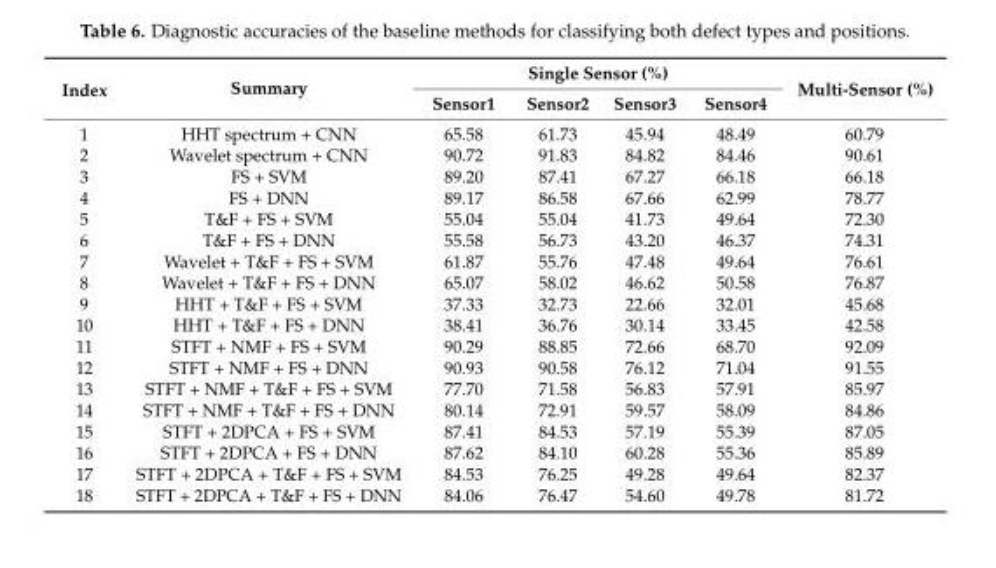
<table><thead><tr><td rowspan="2">Index</td><td rowspan="2">Summary</td><td colspan="4">Single Sensor (%)</td><td rowspan="2">Multi-Sensor (%)</td></tr><tr><td>Sensor1</td><td>Sensor2</td><td>Sensor3</td><td>Sensor4</td></tr></thead><tbody><tr><td>1</td><td>HHT spectrum + CNN</td><td>65.58</td><td>61.73</td><td>45.94</td><td>48.49</td><td>60.79</td></tr><tr><td>2</td><td>Wavelet spectrum + CNN</td><td>90.72</td><td>91.83</td><td>84.82</td><td>84.46</td><td>90.61</td></tr><tr><td>3</td><td>FS + SVM</td><td>89.20</td><td>87.41</td><td>67.27</td><td>66.18</td><td>66.18</td></tr><tr><td>4</td><td>FS + DNN</td><td>89.17</td><td>86.58</td><td>67.66</td><td>62.99</td><td>78.77</td></tr><tr><td>5</td><td>T&amp;F + FS + SVM</td><td>55.04</td><td>55.04</td><td>41.73</td><td>49.64</td><td>72.30</td></tr><tr><td>6</td><td>T&amp;F + FS + DNN</td><td>55.58</td><td>56.73</td><td>43.20</td><td>46.37</td><td>74.31</td></tr><tr><td>7</td><td>Wavelet + T&amp;F + FS + SVM</td><td>61.87</td><td>55.76</td><td>47.48</td><td>49.64</td><td>76.61</td></tr><tr><td>8</td><td>Wavelet + T&amp;F + FS + DNN</td><td>65.07</td><td>58.02</td><td>46.62</td><td>50.58</td><td>76.87</td></tr><tr><td>9</td><td>HHT + T&amp;F + FS + SVM</td><td>37.33</td><td>32.73</td><td>22.66</td><td>32.01</td><td>45.68</td></tr><tr><td>10</td><td>HHT + T&amp;F + FS + DNN</td><td>38.41</td><td>36.76</td><td>30.14</td><td>33.45</td><td>42.58</td></tr><tr><td>11</td><td>STFT + NMF + FS + SVM</td><td>90.29</td><td>88.85</td><td>72.66</td><td>68.70</td><td>92.09</td></tr><tr><td>12</td><td>STFT + NMF + FS + DNN</td><td>90.93</td><td>90.58</td><td>76.12</td><td>71.04</td><td>91.55</td></tr><tr><td>13</td><td>STFT + NMF + T&amp;F + FS + SVM</td><td>77.70</td><td>71.58</td><td>56.83</td><td>57.91</td><td>85.97</td></tr><tr><td>14</td><td>STFT + NMF + T&amp;F + FS + DNN</td><td>80.14</td><td>72.91</td><td>59.57</td><td>58.09</td><td>84.86</td></tr><tr><td>15</td><td>STFT + 2DPCA + FS + SVM</td><td>87.41</td><td>84.53</td><td>57.19</td><td>55.39</td><td>87.05</td></tr><tr><td>16</td><td>STFT + 2DPCA + FS + DNN</td><td>87.62</td><td>84.10</td><td>60.28</td><td>55.36</td><td>85.89</td></tr><tr><td>17</td><td>STFT + 2DPCA + T&amp;F + FS + SVM</td><td>84.53</td><td>76.25</td><td>49.28</td><td>49.64</td><td>82.37</td></tr><tr><td>18</td><td>STFT + 2DPCA + T&amp;F + FS + DNN</td><td>84.06</td><td>76.47</td><td>54.60</td><td>49.78</td><td>81.72</td></tr></tbody></table>